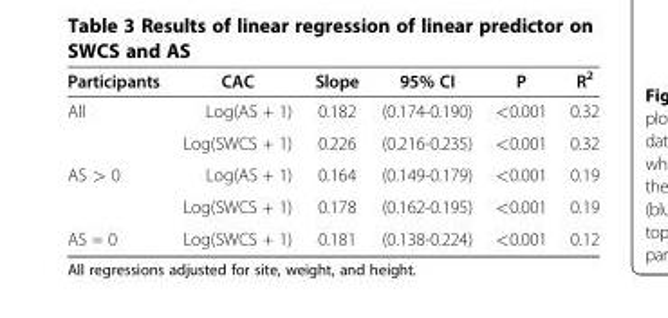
<table><thead><tr><td>Participants</td><td>CAC</td><td>Slope</td><td>95% CI</td><td>P</td><td>R<sup>2</sup></td></tr></thead><tbody><tr><td rowspan="2">All</td><td>Log(AS + 1)</td><td>0.182</td><td>(0.174-0.190)</td><td>&lt;0.001</td><td>0.32</td></tr><tr><td>Log(SWCS + 1)</td><td>0.226</td><td>(0.216-0.235)</td><td>&lt;0.001</td><td>0.32</td></tr><tr><td rowspan="2">AS &gt; 0</td><td>Log(AS + 1)</td><td>0.164</td><td>(0.149-0.179)</td><td>&lt;0.001</td><td>0.19</td></tr><tr><td>Log(SWCS + 1)</td><td>0.178</td><td>(0.162-0.195)</td><td>&lt;0.001</td><td>0.19</td></tr><tr><td>AS = 0</td><td>Log(SWCS + 1)</td><td>0.181</td><td>(0.138-0.224)</td><td>&lt;0.001</td><td>0.12</td></tr></tbody></table>